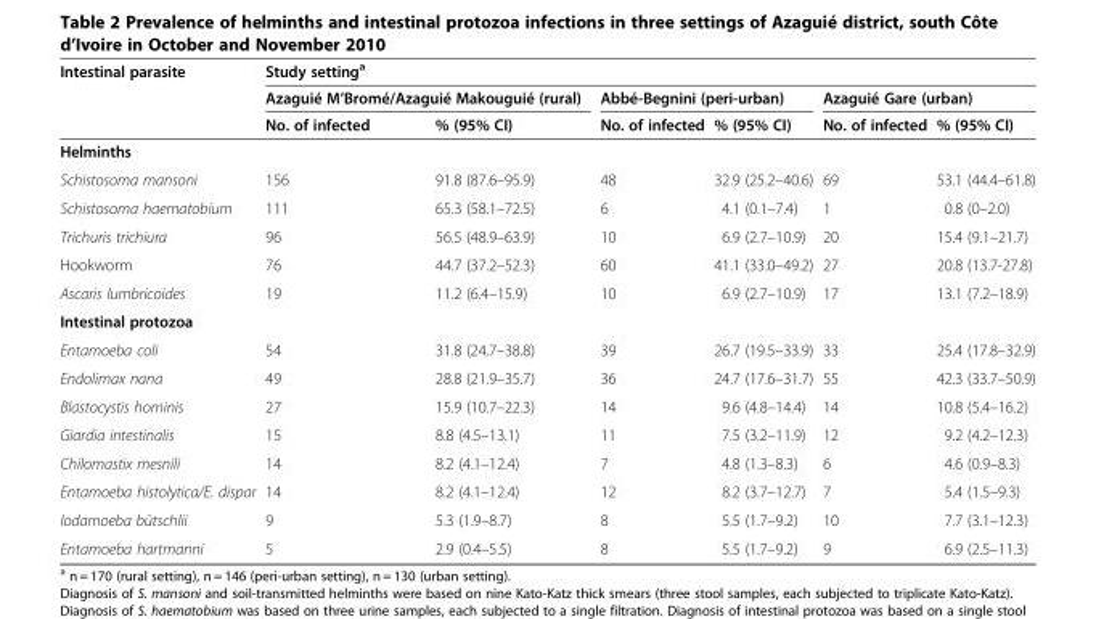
<table><thead><tr><td rowspan="3">Intestinal parasite</td><td colspan="6">Study setting<sup>a</sup></td></tr><tr><td colspan="2">Azaguié M’Bromé/Azaguié Makouguié (rural)</td><td colspan="2">Abbé-Begnini (peri-urban)</td><td colspan="2">Azaguié Gare (urban)</td></tr><tr><td>No. of infected</td><td>% (95% CI)</td><td>No. of infected</td><td>% (95% CI)</td><td>No. of infected</td><td>% (95% CI)</td></tr></thead><tbody><tr><td colspan="7">Helminths</td></tr><tr><td>Schistosoma mansoni</td><td>156</td><td>91.8 (87.6–95.9)</td><td>48</td><td>32.9 (25.2–40.6)</td><td>69</td><td>53.1 (44.4–61.8)</td></tr><tr><td>Schistosoma haematobium</td><td>111</td><td>65.3 (58.1–72.5)</td><td>6</td><td>4.1 (0.1–7.4)</td><td>1</td><td>0.8 (0–2.0)</td></tr><tr><td>Trichuris trichiura</td><td>96</td><td>56.5 (48.9–63.9)</td><td>10</td><td>6.9 (2.7–10.9)</td><td>20</td><td>15.4 (9.1–21.7)</td></tr><tr><td>Hookworm</td><td>76</td><td>44.7 (37.2–52.3)</td><td>60</td><td>41.1 (33.0–49.2)</td><td>27</td><td>20.8 (13.7-27.8)</td></tr><tr><td>Ascaris lumbricoides</td><td>19</td><td>11.2 (6.4–15.9)</td><td>10</td><td>6.9 (2.7–10.9)</td><td>17</td><td>13.1 (7.2–18.9)</td></tr><tr><td colspan="7">Intestinal protozoa</td></tr><tr><td>Entamoeba coli</td><td>54</td><td>31.8 (24.7–38.8)</td><td>39</td><td>26.7 (19.5–33.9)</td><td>33</td><td>25.4 (17.8–32.9)</td></tr><tr><td>Endolimax nana</td><td>49</td><td>28.8 (21.9–35.7)</td><td>36</td><td>24.7 (17.6–31.7)</td><td>55</td><td>42.3 (33.7–50.9)</td></tr><tr><td>Blastocystis hominis</td><td>27</td><td>15.9 (10.7–22.3)</td><td>14</td><td>9.6 (4.8–14.4)</td><td>14</td><td>10.8 (5.4–16.2)</td></tr><tr><td>Giardia intestinalis</td><td>15</td><td>8.8 (4.5–13.1)</td><td>11</td><td>7.5 (3.2–11.9)</td><td>12</td><td>9.2 (4.2–12.3)</td></tr><tr><td>Chilomastix mesnili</td><td>14</td><td>8.2 (4.1–12.4)</td><td>7</td><td>4.8 (1.3–8.3)</td><td>6</td><td>4.6 (0.9–8.3)</td></tr><tr><td>Entamoeba histolytica/E. dispar</td><td>14</td><td>8.2 (4.1–12.4)</td><td>12</td><td>8.2 (3.7–12.7)</td><td>7</td><td>5.4 (1.5–9.3)</td></tr><tr><td>Iodamoeba bütschlii</td><td>9</td><td>5.3 (1.9–8.7)</td><td>8</td><td>5.5 (1.7–9.2)</td><td>10</td><td>7.7 (3.1–12.3)</td></tr><tr><td>Entamoeba hartmanni</td><td>5</td><td>2.9 (0.4–5.5)</td><td>8</td><td>5.5 (1.7–9.2)</td><td>9</td><td>6.9 (2.5–11.3)</td></tr></tbody></table>